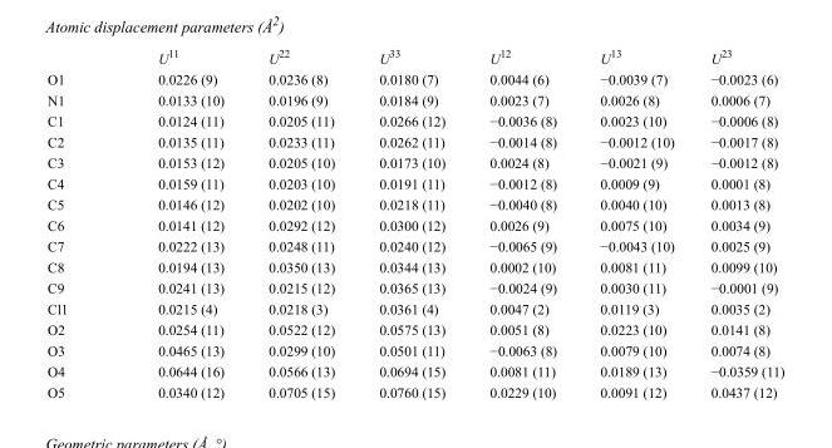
<table><thead><tr><td></td><td>U<sup>11</sup></td><td>U<sup>22</sup></td><td>U<sup>33</sup></td><td>U<sup>12</sup></td><td>U<sup>13</sup></td><td>U<sup>23</sup></td></tr></thead><tbody><tr><td>O1</td><td>0.0226 (9)</td><td>0.0236 (8)</td><td>0.0180 (7)</td><td>0.0044 (6)</td><td>−0.0039 (7)</td><td>−0.0023 (6)</td></tr><tr><td>N1</td><td>0.0133 (10)</td><td>0.0196 (9)</td><td>0.0184 (9)</td><td>0.0023 (7)</td><td>0.0026 (8)</td><td>0.0006 (7)</td></tr><tr><td>C1</td><td>0.0124 (11)</td><td>0.0205 (11)</td><td>0.0266 (12)</td><td>−0.0036 (8)</td><td>0.0023 (10)</td><td>−0.0006 (8)</td></tr><tr><td>C2</td><td>0.0135 (11)</td><td>0.0233 (11)</td><td>0.0262 (11)</td><td>−0.0014 (8)</td><td>−0.0012 (10)</td><td>−0.0017 (8)</td></tr><tr><td>C3</td><td>0.0153 (12)</td><td>0.0205 (10)</td><td>0.0173 (10)</td><td>0.0024 (8)</td><td>−0.0021 (9)</td><td>−0.0012 (8)</td></tr><tr><td>C4</td><td>0.0159 (11)</td><td>0.0203 (10)</td><td>0.0191 (11)</td><td>−0.0012 (8)</td><td>0.0009 (9)</td><td>0.0001 (8)</td></tr><tr><td>C5</td><td>0.0146 (12)</td><td>0.0202 (10)</td><td>0.0218 (11)</td><td>−0.0040 (8)</td><td>0.0040 (10)</td><td>0.0013 (8)</td></tr><tr><td>C6</td><td>0.0141 (12)</td><td>0.0292 (12)</td><td>0.0300 (12)</td><td>0.0026 (9)</td><td>0.0075 (10)</td><td>0.0034 (9)</td></tr><tr><td>C7</td><td>0.0222 (13)</td><td>0.0248 (11)</td><td>0.0240 (12)</td><td>−0.0065 (9)</td><td>−0.0043 (10)</td><td>0.0025 (9)</td></tr><tr><td>C8</td><td>0.0194 (13)</td><td>0.0350 (13)</td><td>0.0344 (13)</td><td>0.0002 (10)</td><td>0.0081 (11)</td><td>0.0099 (10)</td></tr><tr><td>C9</td><td>0.0241 (13)</td><td>0.0215 (12)</td><td>0.0365 (13)</td><td>−0.0024 (9)</td><td>0.0030 (11)</td><td>−0.0001 (9)</td></tr><tr><td>Cl1</td><td>0.0215 (4)</td><td>0.0218 (3)</td><td>0.0361 (4)</td><td>0.0047 (2)</td><td>0.0119 (3)</td><td>0.0035 (2)</td></tr><tr><td>O2</td><td>0.0254 (11)</td><td>0.0522 (12)</td><td>0.0575 (13)</td><td>0.0051 (8)</td><td>0.0223 (10)</td><td>0.0141 (8)</td></tr><tr><td>O3</td><td>0.0465 (13)</td><td>0.0299 (10)</td><td>0.0501 (11)</td><td>−0.0063 (8)</td><td>0.0079 (10)</td><td>0.0074 (8)</td></tr><tr><td>O4</td><td>0.0644 (16)</td><td>0.0566 (13)</td><td>0.0694 (15)</td><td>0.0081 (11)</td><td>0.0189 (13)</td><td>−0.0359 (11)</td></tr><tr><td>O5</td><td>0.0340 (12)</td><td>0.0705 (15)</td><td>0.0760 (15)</td><td>0.0229 (10)</td><td>0.0091 (12)</td><td>0.0437 (12)</td></tr></tbody></table>